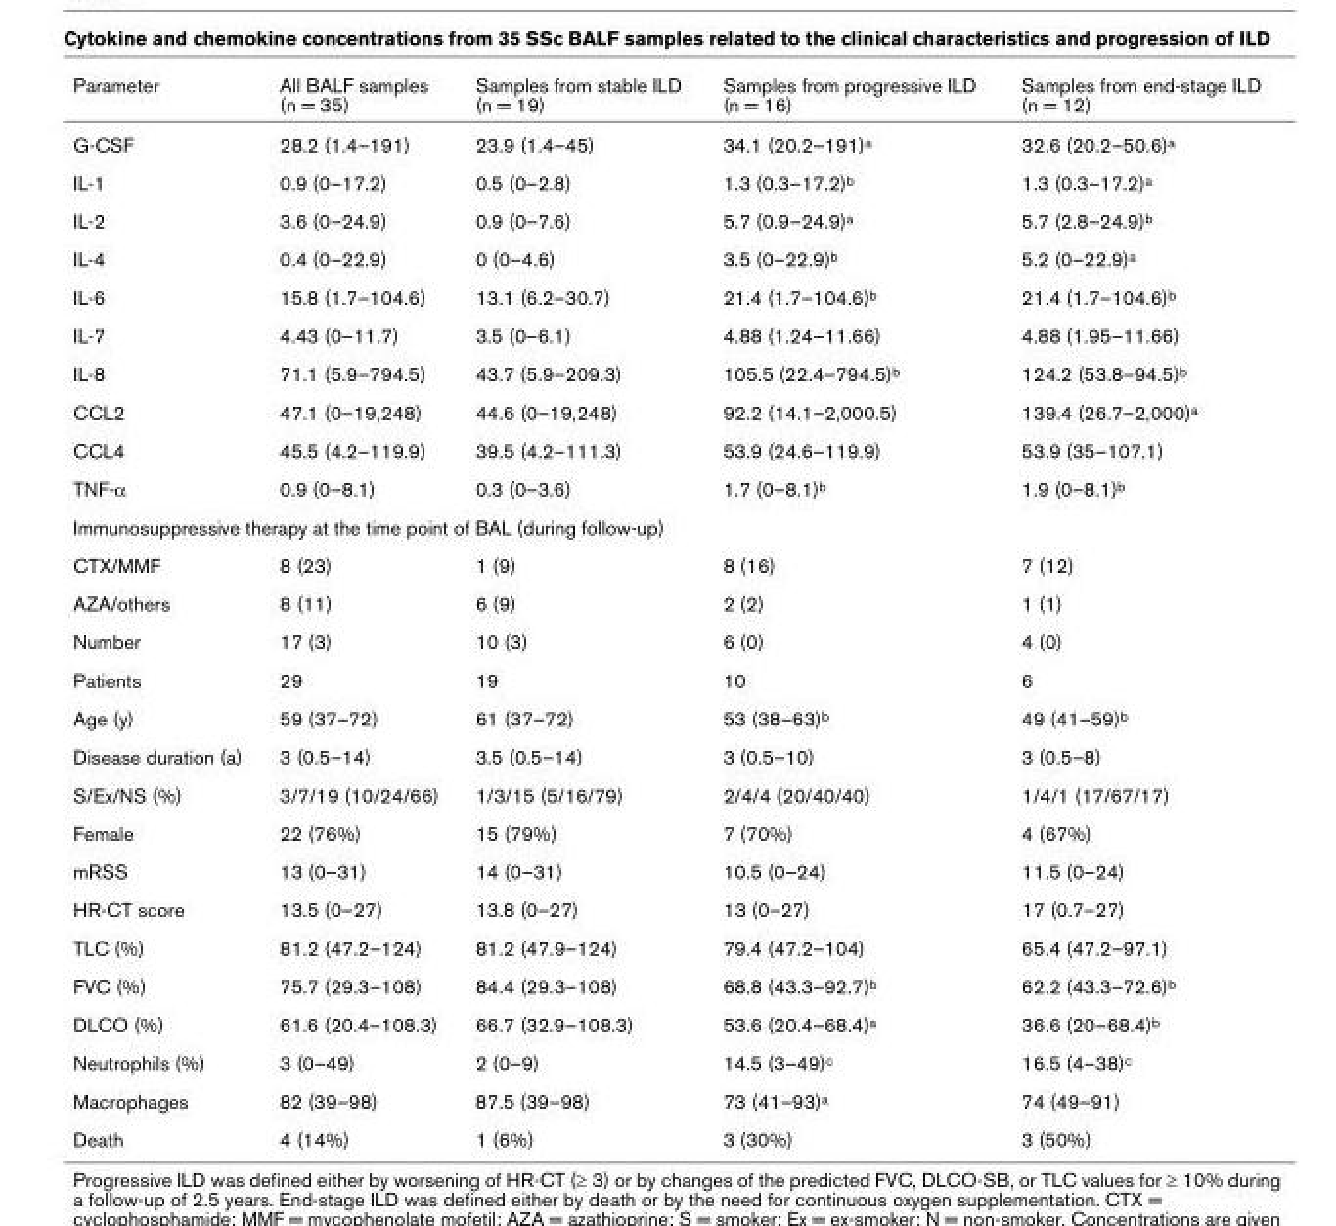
<table><thead><tr><td>Parameter</td><td>All BALF samples (n = 35)</td><td>Samples from stable ILD (n = 19)</td><td>Samples from progressive ILD (n = 16)</td><td>Samples from end-stage ILD (n = 12)</td></tr></thead><tbody><tr><td>G-CSF</td><td>28.2 (1.4–191)</td><td>23.9 (1.4–45)</td><td>34.1 (20.2–191)<sup>a</sup></td><td>32.6 (20.2–50.6)<sup>a</sup></td></tr><tr><td>IL-1</td><td>0.9 (0–17.2)</td><td>0.5 (0–2.8)</td><td>1.3 (0.3–17.2)<sup>b</sup></td><td>1.3 (0.3–17.2)<sup>a</sup></td></tr><tr><td>IL-2</td><td>3.6 (0–24.9)</td><td>0.9 (0–7.6)</td><td>5.7 (0.9–24.9)<sup>a</sup></td><td>5.7 (2.8–24.9)<sup>b</sup></td></tr><tr><td>IL-4</td><td>0.4 (0–22.9)</td><td>0 (0–4.6)</td><td>3.5 (0–22.9)<sup>b</sup></td><td>5.2 (0–22.9)<sup>a</sup></td></tr><tr><td>IL-6</td><td>15.8 (1.7–104.6)</td><td>13.1 (6.2–30.7)</td><td>21.4 (1.7–104.6)<sup>b</sup></td><td>21.4 (1.7–104.6)<sup>b</sup></td></tr><tr><td>IL-7</td><td>4.43 (0–11.7)</td><td>3.5 (0–6.1)</td><td>4.88 (1.24–11.66)</td><td>4.88 (1.95–11.66)</td></tr><tr><td>IL-8</td><td>71.1 (5.9–794.5)</td><td>43.7 (5.9–209.3)</td><td>105.5 (22.4–794.5)<sup>b</sup></td><td>124.2 (53.8–94.5)<sup>b</sup></td></tr><tr><td>CCL2</td><td>47.1 (0–19,248)</td><td>44.6 (0–19,248)</td><td>92.2 (14.1–2,000.5)</td><td>139.4 (26.7–2,000)<sup>a</sup></td></tr><tr><td>CCL4</td><td>45.5 (4.2–119.9)</td><td>39.5 (4.2–111.3)</td><td>53.9 (24.6–119.9)</td><td>53.9 (35–107.1)</td></tr><tr><td>TNF-α</td><td>0.9 (0–8.1)</td><td>0.3 (0–3.6)</td><td>1.7 (0–8.1)<sup>b</sup></td><td>1.9 (0–8.1)<sup>b</sup></td></tr><tr><td colspan="5">Immunosuppressive therapy at the time point of BAL (during follow-up)</td></tr><tr><td>CTX/MMF</td><td>8 (23)</td><td>1 (9)</td><td>8 (16)</td><td>7 (12)</td></tr><tr><td>AZA/others</td><td>8 (11)</td><td>6 (9)</td><td>2 (2)</td><td>1 (1)</td></tr><tr><td>Number</td><td>17 (3)</td><td>10 (3)</td><td>6 (0)</td><td>4 (0)</td></tr><tr><td>Patients</td><td>29</td><td>19</td><td>10</td><td>6</td></tr><tr><td>Age (y)</td><td>59 (37–72)</td><td>61 (37–72)</td><td>53 (38–63)<sup>b</sup></td><td>49 (41–59)<sup>b</sup></td></tr><tr><td>Disease duration (a)</td><td>3 (0.5–14)</td><td>3.5 (0.5–14)</td><td>3 (0.5–10)</td><td>3 (0.5–8)</td></tr><tr><td>S/Ex/NS (%)</td><td>3/7/19 (10/24/66)</td><td>1/3/15 (5/16/79)</td><td>2/4/4 (20/40/40)</td><td>1/4/1 (17/67/17)</td></tr><tr><td>Female</td><td>22 (76%)</td><td>15 (79%)</td><td>7 (70%)</td><td>4 (67%)</td></tr><tr><td>mRSS</td><td>13 (0–31)</td><td>14 (0–31)</td><td>10.5 (0–24)</td><td>11.5 (0–24)</td></tr><tr><td>HR-CT score</td><td>13.5 (0–27)</td><td>13.8 (0–27)</td><td>13 (0–27)</td><td>17 (0.7–27)</td></tr><tr><td>TLC (%)</td><td>81.2 (47.2–124)</td><td>81.2 (47.9–124)</td><td>79.4 (47.2–104)</td><td>65.4 (47.2–97.1)</td></tr><tr><td>FVC (%)</td><td>75.7 (29.3–108)</td><td>84.4 (29.3–108)</td><td>68.8 (43.3–92.7)<sup>b</sup></td><td>62.2 (43.3–72.6)<sup>b</sup></td></tr><tr><td>DLCO (%)</td><td>61.6 (20.4–108.3)</td><td>66.7 (32.9–108.3)</td><td>53.6 (20.4–68.4)<sup>a</sup></td><td>36.6 (20–68.4)<sup>b</sup></td></tr><tr><td>Neutrophils (%)</td><td>3 (0–49)</td><td>2 (0–9)</td><td>14.5 (3–49)<sup>c</sup></td><td>16.5 (4–38)<sup>c</sup></td></tr><tr><td>Macrophages</td><td>82 (39–98)</td><td>87.5 (39–98)</td><td>73 (41–93)<sup>a</sup></td><td>74 (49–91)</td></tr><tr><td>Death</td><td>4 (14%)</td><td>1 (6%)</td><td>3 (30%)</td><td>3 (50%)</td></tr></tbody></table>